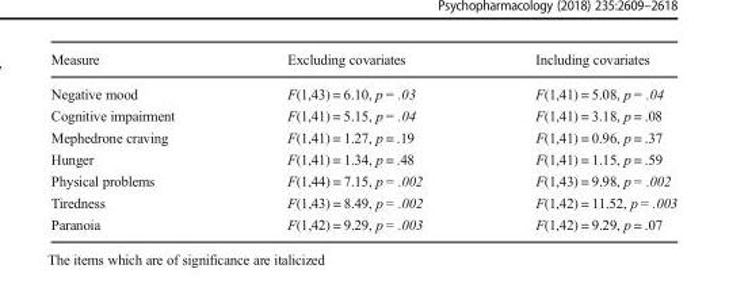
<table><thead><tr><td>Measure</td><td>Excluding covariates</td><td>Including covariates</td></tr></thead><tbody><tr><td>Negative mood</td><td>F(1,43) = 6.10, p = .03</td><td>F(1,41) = 5.08, p = .04</td></tr><tr><td>Cognitive impairment</td><td>F(1,41) = 5.15, p = .04</td><td>F(1,41) = 3.18, p = .08</td></tr><tr><td>Mephedrone craving</td><td>F(1,41) = 1.27, p = .19</td><td>F(1,41) = 0.96, p = .37</td></tr><tr><td>Hunger</td><td>F(1,41) = 1.34, p = .48</td><td>F(1,41) = 1.15, p = .59</td></tr><tr><td>Physical problems</td><td>F(1,44) = 7.15, p = .002</td><td>F(1,43) = 9.98, p = .002</td></tr><tr><td>Tiredness</td><td>F(1,43) = 8.49, p = .002</td><td>F(1,42) = 11.52, p = .003</td></tr><tr><td>Paranoia</td><td>F(1,42) = 9.29, p = .003</td><td>F(1,42) = 9.29, p = .07</td></tr></tbody></table>